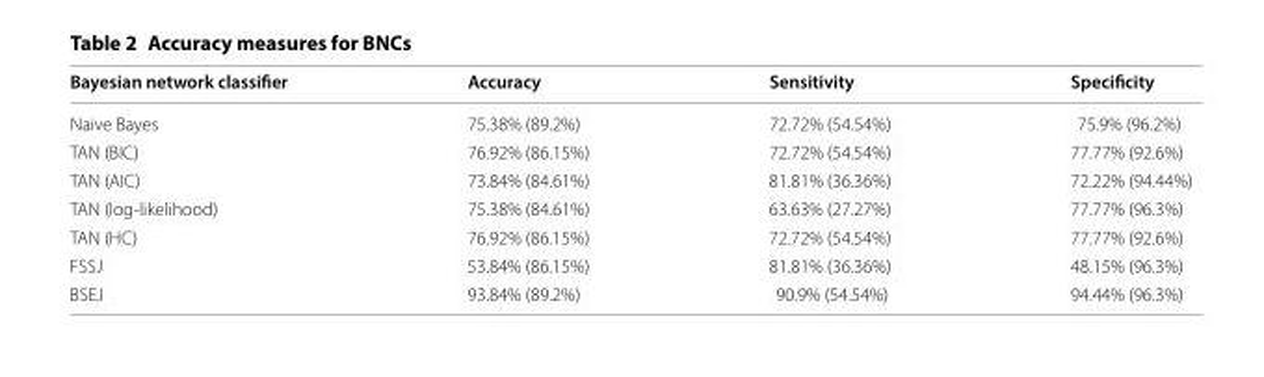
<table><thead><tr><td>Bayesian network classifier</td><td>Accuracy</td><td>Sensitivity</td><td>Specificity</td></tr></thead><tbody><tr><td>Naive Bayes</td><td>75.38% (89.2%)</td><td>72.72% (54.54%)</td><td>75.9% (96.2%)</td></tr><tr><td>TAN (BIC)</td><td>76.92% (86.15%)</td><td>72.72% (54.54%)</td><td>77.77% (92.6%)</td></tr><tr><td>TAN (AIC)</td><td>73.84% (84.61%)</td><td>81.81% (36.36%)</td><td>72.22% (94.44%)</td></tr><tr><td>TAN (log-likelihood)</td><td>75.38% (84.61%)</td><td>63.63% (27.27%)</td><td>77.77% (96.3%)</td></tr><tr><td>TAN (HC)</td><td>76.92% (86.15%)</td><td>72.72% (54.54%)</td><td>77.77% (92.6%)</td></tr><tr><td>FSSJ</td><td>53.84% (86.15%)</td><td>81.81% (36.36%)</td><td>48.15% (96.3%)</td></tr><tr><td>BSEJ</td><td>93.84% (89.2%)</td><td>90.9% (54.54%)</td><td>94.44% (96.3%)</td></tr></tbody></table>